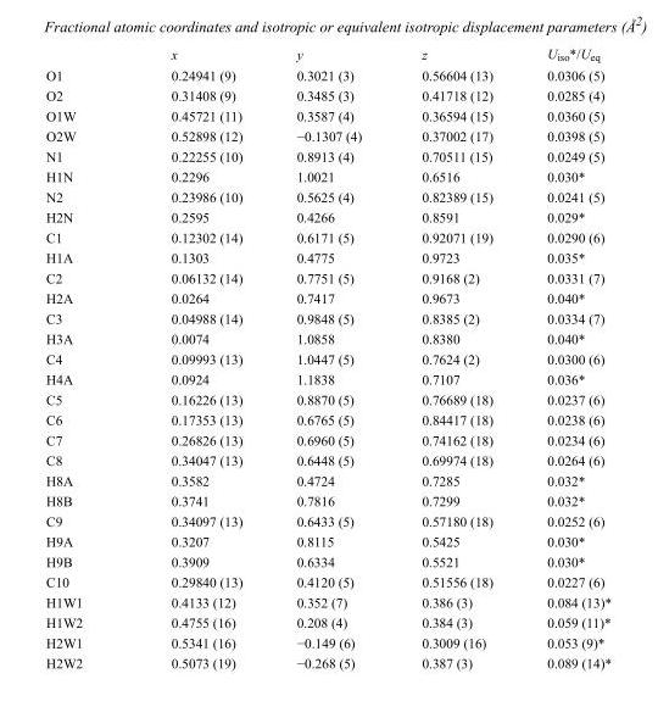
<table><thead><tr><td></td><td>x</td><td>y</td><td>z</td><td>U<sub>iso</sub>*/U<sub>eq</sub></td></tr></thead><tbody><tr><td>O1</td><td>0.24941 (9)</td><td>0.3021 (3)</td><td>0.56604 (13)</td><td>0.0306 (5)</td></tr><tr><td>O2</td><td>0.31408 (9)</td><td>0.3485 (3)</td><td>0.41718 (12)</td><td>0.0285 (4)</td></tr><tr><td>O1W</td><td>0.45721 (11)</td><td>0.3587 (4)</td><td>0.36594 (15)</td><td>0.0360 (5)</td></tr><tr><td>O2W</td><td>0.52898 (12)</td><td>−0.1307 (4)</td><td>0.37002 (17)</td><td>0.0398 (5)</td></tr><tr><td>N1</td><td>0.22255 (10)</td><td>0.8913 (4)</td><td>0.70511 (15)</td><td>0.0249 (5)</td></tr><tr><td>H1N</td><td>0.2296</td><td>1.0021</td><td>0.6516</td><td>0.030*</td></tr><tr><td>N2</td><td>0.23986 (10)</td><td>0.5625 (4)</td><td>0.82389 (15)</td><td>0.0241 (5)</td></tr><tr><td>H2N</td><td>0.2595</td><td>0.4266</td><td>0.8591</td><td>0.029*</td></tr><tr><td>C1</td><td>0.12302 (14)</td><td>0.6171 (5)</td><td>0.92071 (19)</td><td>0.0290 (6)</td></tr><tr><td>H1A</td><td>0.1303</td><td>0.4775</td><td>0.9723</td><td>0.035*</td></tr><tr><td>C2</td><td>0.06132 (14)</td><td>0.7751 (5)</td><td>0.9168 (2)</td><td>0.0331 (7)</td></tr><tr><td>H2A</td><td>0.0264</td><td>0.7417</td><td>0.9673</td><td>0.040*</td></tr><tr><td>C3</td><td>0.04988 (14)</td><td>0.9848 (5)</td><td>0.8385 (2)</td><td>0.0334 (7)</td></tr><tr><td>H3A</td><td>0.0074</td><td>1.0858</td><td>0.8380</td><td>0.040*</td></tr><tr><td>C4</td><td>0.09993 (13)</td><td>1.0447 (5)</td><td>0.7624 (2)</td><td>0.0300 (6)</td></tr><tr><td>H4A</td><td>0.0924</td><td>1.1838</td><td>0.7107</td><td>0.036*</td></tr><tr><td>C5</td><td>0.16226 (13)</td><td>0.8870 (5)</td><td>0.76689 (18)</td><td>0.0237 (6)</td></tr><tr><td>C6</td><td>0.17353 (13)</td><td>0.6765 (5)</td><td>0.84417 (18)</td><td>0.0238 (6)</td></tr><tr><td>C7</td><td>0.26826 (13)</td><td>0.6960 (5)</td><td>0.74162 (18)</td><td>0.0234 (6)</td></tr><tr><td>C8</td><td>0.34047 (13)</td><td>0.6448 (5)</td><td>0.69974 (18)</td><td>0.0264 (6)</td></tr><tr><td>H8A</td><td>0.3582</td><td>0.4724</td><td>0.7285</td><td>0.032*</td></tr><tr><td>H8B</td><td>0.3741</td><td>0.7816</td><td>0.7299</td><td>0.032*</td></tr><tr><td>C9</td><td>0.34097 (13)</td><td>0.6433 (5)</td><td>0.57180 (18)</td><td>0.0252 (6)</td></tr><tr><td>H9A</td><td>0.3207</td><td>0.8115</td><td>0.5425</td><td>0.030*</td></tr><tr><td>H9B</td><td>0.3909</td><td>0.6334</td><td>0.5521</td><td>0.030*</td></tr><tr><td>C10</td><td>0.29840 (13)</td><td>0.4120 (5)</td><td>0.51556 (18)</td><td>0.0227 (6)</td></tr><tr><td>H1W1</td><td>0.4133 (12)</td><td>0.352 (7)</td><td>0.386 (3)</td><td>0.084 (13)*</td></tr><tr><td>H1W2</td><td>0.4755 (16)</td><td>0.208 (4)</td><td>0.384 (3)</td><td>0.059 (11)*</td></tr><tr><td>H2W1</td><td>0.5341 (16)</td><td>−0.149 (6)</td><td>0.3009 (16)</td><td>0.053 (9)*</td></tr><tr><td>H2W2</td><td>0.5073 (19)</td><td>−0.268 (5)</td><td>0.387 (3)</td><td>0.089 (14)*</td></tr></tbody></table>